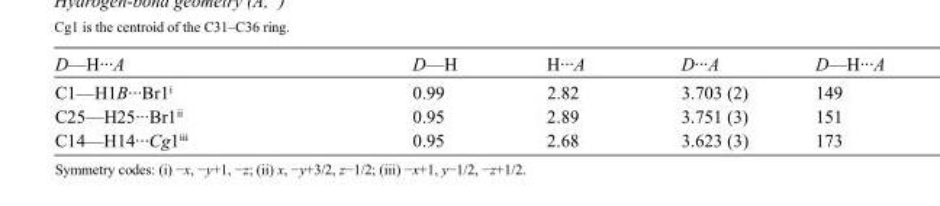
<table><tbody><tr><td>D—H···A</td><td>D—H</td><td>H···A</td><td>D···A</td><td>D—H···A</td></tr><tr><td>C1—H1B···Br1<sup>i</sup></td><td>0.99</td><td>2.82</td><td>3.703 (2)</td><td>149</td></tr><tr><td>C25—H25···Br1<sup>ii</sup></td><td>0.95</td><td>2.89</td><td>3.751 (3)</td><td>151</td></tr><tr><td>C14—H14···Cg1<sup>iii</sup></td><td>0.95</td><td>2.68</td><td>3.623 (3)</td><td>173</td></tr></tbody></table>